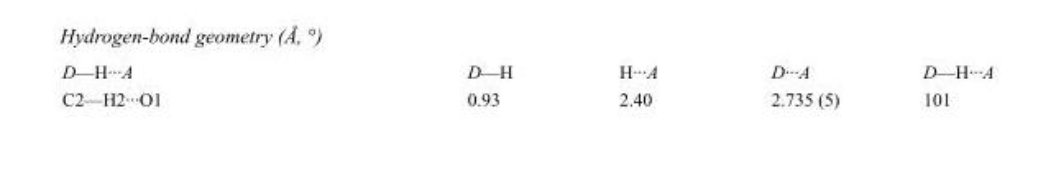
<table><tbody><tr><td>D—H···A</td><td>D—H</td><td>H···A</td><td>D···A</td><td>D—H···A</td></tr><tr><td>C2—H2···O1</td><td>0.93</td><td>2.40</td><td>2.735 (5)</td><td>101</td></tr></tbody></table>